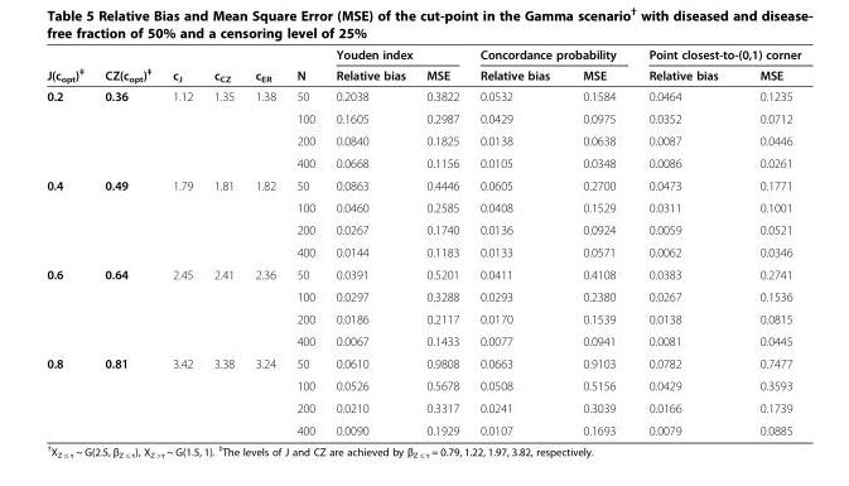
<table><thead><tr><td rowspan="2">J(c<sub>opt</sub>)<sup>‡</sup></td><td rowspan="2">CZ(c<sub>opt</sub>)<sup>‡</sup></td><td rowspan="2">c<sub>J</sub></td><td rowspan="2">c<sub>CZ</sub></td><td rowspan="2">c<sub>ER</sub></td><td rowspan="2">N</td><td colspan="2">Youden index</td><td colspan="2">Concordance probability</td><td colspan="2">Point closest-to-(0,1) corner</td></tr><tr><td>Relative bias</td><td>MSE</td><td>Relative bias</td><td>MSE</td><td>Relative bias</td><td>MSE</td></tr></thead><tbody><tr><td rowspan="4">0.2</td><td>0.36</td><td>1.12</td><td>1.35</td><td>1.38</td><td>50</td><td>0.2038</td><td>0.3822</td><td>0.0532</td><td>0.1584</td><td>0.0464</td><td>0.1235</td></tr><tr><td></td><td></td><td></td><td></td><td>100</td><td>0.1605</td><td>0.2987</td><td>0.0429</td><td>0.0975</td><td>0.0352</td><td>0.0712</td></tr><tr><td></td><td></td><td></td><td></td><td>200</td><td>0.0840</td><td>0.1825</td><td>0.0138</td><td>0.0638</td><td>0.0087</td><td>0.0446</td></tr><tr><td></td><td></td><td></td><td></td><td>400</td><td>0.0668</td><td>0.1156</td><td>0.0105</td><td>0.0348</td><td>0.0086</td><td>0.0261</td></tr><tr><td rowspan="4">0.4</td><td>0.49</td><td>1.79</td><td>1.81</td><td>1.82</td><td>50</td><td>0.0863</td><td>0.4446</td><td>0.0605</td><td>0.2700</td><td>0.0473</td><td>0.1771</td></tr><tr><td></td><td></td><td></td><td></td><td>100</td><td>0.0460</td><td>0.2585</td><td>0.0408</td><td>0.1529</td><td>0.0311</td><td>0.1001</td></tr><tr><td></td><td></td><td></td><td></td><td>200</td><td>0.0267</td><td>0.1740</td><td>0.0136</td><td>0.0924</td><td>0.0059</td><td>0.0521</td></tr><tr><td></td><td></td><td></td><td></td><td>400</td><td>0.0144</td><td>0.1183</td><td>0.0133</td><td>0.0571</td><td>0.0062</td><td>0.0346</td></tr><tr><td rowspan="4">0.6</td><td>0.64</td><td>2.45</td><td>2.41</td><td>2.36</td><td>50</td><td>0.0391</td><td>0.5201</td><td>0.0411</td><td>0.4108</td><td>0.0383</td><td>0.2741</td></tr><tr><td></td><td></td><td></td><td></td><td>100</td><td>0.0297</td><td>0.3288</td><td>0.0293</td><td>0.2380</td><td>0.0267</td><td>0.1536</td></tr><tr><td></td><td></td><td></td><td></td><td>200</td><td>0.0186</td><td>0.2117</td><td>0.0170</td><td>0.1539</td><td>0.0138</td><td>0.0815</td></tr><tr><td></td><td></td><td></td><td></td><td>400</td><td>0.0067</td><td>0.1433</td><td>0.0077</td><td>0.0941</td><td>0.0081</td><td>0.0445</td></tr><tr><td rowspan="4">0.8</td><td>0.81</td><td>3.42</td><td>3.38</td><td>3.24</td><td>50</td><td>0.0610</td><td>0.9808</td><td>0.0663</td><td>0.9103</td><td>0.0782</td><td>0.7477</td></tr><tr><td></td><td></td><td></td><td></td><td>100</td><td>0.0526</td><td>0.5678</td><td>0.0508</td><td>0.5156</td><td>0.0429</td><td>0.3593</td></tr><tr><td></td><td></td><td></td><td></td><td>200</td><td>0.0210</td><td>0.3317</td><td>0.0241</td><td>0.3039</td><td>0.0166</td><td>0.1739</td></tr><tr><td></td><td></td><td></td><td></td><td>400</td><td>0.0090</td><td>0.1929</td><td>0.0107</td><td>0.1693</td><td>0.0079</td><td>0.0885</td></tr></tbody></table>